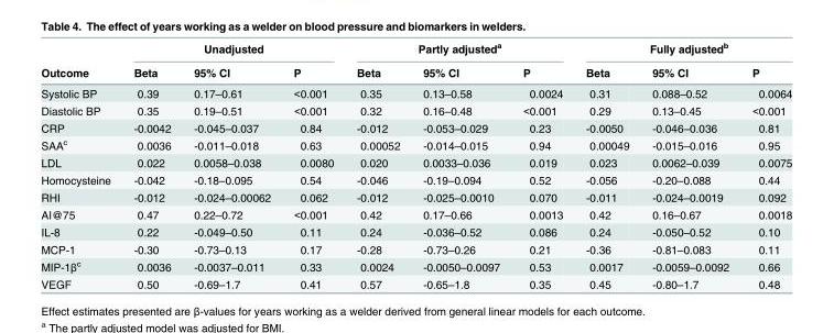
<table><thead><tr><td rowspan="2">Outcome</td><td colspan="3">Unadjusted</td><td colspan="3">Partly adjusted<sup>a</sup></td><td colspan="3">Fully adjusted<sup>b</sup></td></tr><tr><td>Beta</td><td>95% CI</td><td>P</td><td>Beta</td><td>95% CI</td><td>P</td><td>Beta</td><td>95% CI</td><td>P</td></tr></thead><tbody><tr><td>Systolic BP</td><td>0.39</td><td>0.17–0.61</td><td>&lt;0.001</td><td>0.35</td><td>0.13–0.58</td><td>0.0024</td><td>0.31</td><td>0.088–0.52</td><td>0.0064</td></tr><tr><td>Diastolic BP</td><td>0.35</td><td>0.19–0.51</td><td>&lt;0.001</td><td>0.32</td><td>0.16–0.48</td><td>&lt;0.001</td><td>0.29</td><td>0.13–0.45</td><td>&lt;0.001</td></tr><tr><td>CRP</td><td>-0.0042</td><td>-0.045–0.037</td><td>0.84</td><td>-0.012</td><td>-0.053–0.029</td><td>0.23</td><td>-0.0050</td><td>-0.046–0.036</td><td>0.81</td></tr><tr><td>SAA<sup>c</sup></td><td>0.0036</td><td>-0.011–0.018</td><td>0.63</td><td>0.00052</td><td>-0.014–0.015</td><td>0.94</td><td>0.00049</td><td>-0.015–0.016</td><td>0.95</td></tr><tr><td>LDL</td><td>0.022</td><td>0.0058–0.038</td><td>0.0080</td><td>0.020</td><td>0.0033–0.036</td><td>0.019</td><td>0.023</td><td>0.0062–0.039</td><td>0.0075</td></tr><tr><td>Homocysteine</td><td>-0.042</td><td>-0.18–0.095</td><td>0.54</td><td>-0.046</td><td>-0.19–0.094</td><td>0.52</td><td>-0.056</td><td>-0.20–0.088</td><td>0.44</td></tr><tr><td>RHI</td><td>-0.012</td><td>-0.024–0.00062</td><td>0.062</td><td>-0.012</td><td>-0.025–0.0010</td><td>0.070</td><td>-0.011</td><td>-0.024–0.0019</td><td>0.092</td></tr><tr><td>AI@75</td><td>0.47</td><td>0.22–0.72</td><td>&lt;0.001</td><td>0.42</td><td>0.17–0.66</td><td>0.0013</td><td>0.42</td><td>0.16–0.67</td><td>0.0018</td></tr><tr><td>IL-8</td><td>0.22</td><td>-0.049–0.50</td><td>0.11</td><td>0.24</td><td>-0.036–0.52</td><td>0.086</td><td>0.24</td><td>-0.050–0.52</td><td>0.10</td></tr><tr><td>MCP-1</td><td>-0.30</td><td>-0.73–0.13</td><td>0.17</td><td>-0.28</td><td>-0.73–0.26</td><td>0.21</td><td>-0.36</td><td>-0.81–0.083</td><td>0.11</td></tr><tr><td>MIP-1β<sup>c</sup></td><td>0.0036</td><td>-0.0037–0.011</td><td>0.33</td><td>0.0024</td><td>-0.0050–0.0097</td><td>0.53</td><td>0.0017</td><td>-0.0059–0.0092</td><td>0.66</td></tr><tr><td>VEGF</td><td>0.50</td><td>-0.69–1.7</td><td>0.41</td><td>0.57</td><td>-0.65–1.8</td><td>0.35</td><td>0.45</td><td>-0.80–1.7</td><td>0.48</td></tr></tbody></table>